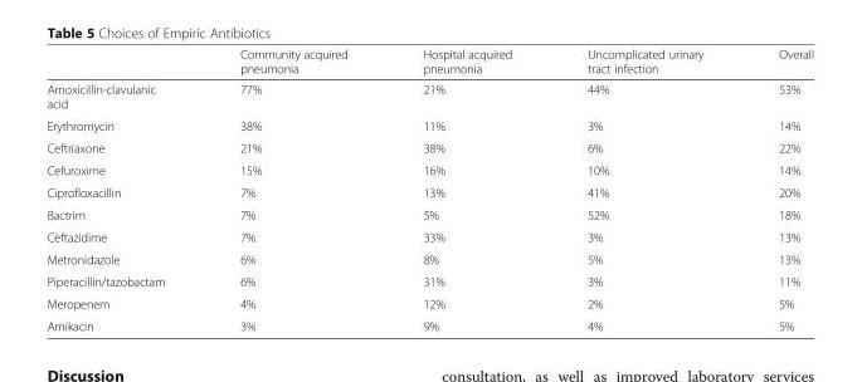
<table><thead><tr><td></td><td>Community acquired pneumonia</td><td>Hospital acquired pneumonia</td><td>Uncomplicated urinary tract infection</td><td>Overall</td></tr></thead><tbody><tr><td>Amoxicillin-clavulanic acid</td><td>77%</td><td>21%</td><td>44%</td><td>53%</td></tr><tr><td>Erythromycin</td><td>38%</td><td>11%</td><td>3%</td><td>14%</td></tr><tr><td>Ceftriaxone</td><td>21%</td><td>38%</td><td>6%</td><td>22%</td></tr><tr><td>Cefuroxime</td><td>15%</td><td>16%</td><td>10%</td><td>14%</td></tr><tr><td>Ciprofloxacillin</td><td>7%</td><td>13%</td><td>41%</td><td>20%</td></tr><tr><td>Bactrim</td><td>7%</td><td>5%</td><td>52%</td><td>18%</td></tr><tr><td>Ceftazidime</td><td>7%</td><td>33%</td><td>3%</td><td>13%</td></tr><tr><td>Metronidazole</td><td>6%</td><td>8%</td><td>5%</td><td>13%</td></tr><tr><td>Piperacillin/tazobactam</td><td>6%</td><td>31%</td><td>3%</td><td>11%</td></tr><tr><td>Meropenem</td><td>4%</td><td>12%</td><td>2%</td><td>5%</td></tr><tr><td>Amikacin</td><td>3%</td><td>9%</td><td>4%</td><td>5%</td></tr></tbody></table>